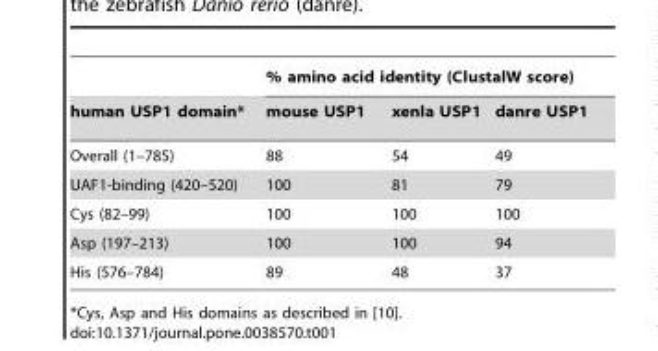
<table><thead><tr><td rowspan="2">human USP1 domain*</td><td colspan="3">% amino acid identity (ClustalW score)</td></tr><tr><td>mouse USP1</td><td>xenla USP1</td><td>danre USP1</td></tr></thead><tbody><tr><td>Overall (1–785)</td><td>88</td><td>54</td><td>49</td></tr><tr><td>UAF1-binding (420–520)</td><td>100</td><td>81</td><td>79</td></tr><tr><td>Cys (82–99)</td><td>100</td><td>100</td><td>100</td></tr><tr><td>Asp (197–213)</td><td>100</td><td>100</td><td>94</td></tr><tr><td>His (576–784)</td><td>89</td><td>48</td><td>37</td></tr></tbody></table>